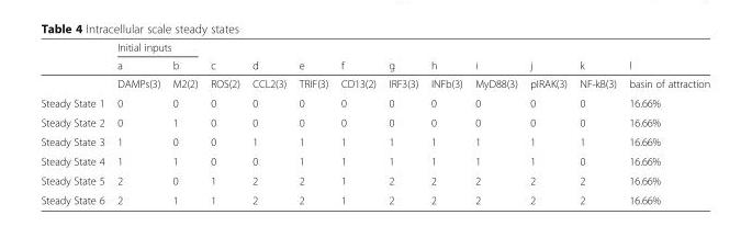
<table><thead><tr><td rowspan="2"></td><td colspan="2">Initial inputs</td><td rowspan="2">c</td><td rowspan="2">d</td><td rowspan="2">e</td><td rowspan="2">f</td><td rowspan="2">g</td><td rowspan="2">h</td><td rowspan="2">i</td><td rowspan="2">j</td><td rowspan="2">k</td><td rowspan="2">l</td></tr><tr><td>a</td><td>b</td></tr></thead><tbody><tr><td></td><td>DAMPs(3)</td><td>M2(2)</td><td>ROS(2)</td><td>CCL2(3)</td><td>TRIF(3)</td><td>CD13(2)</td><td>IRF3(3)</td><td>INFb(3)</td><td>MyD88(3)</td><td>pIRAK(3)</td><td>NF-kB(3)</td><td>basin of attraction</td></tr><tr><td>Steady State 1</td><td>0</td><td>0</td><td>0</td><td>0</td><td>0</td><td>0</td><td>0</td><td>0</td><td>0</td><td>0</td><td>0</td><td>16.66%</td></tr><tr><td>Steady State 2</td><td>0</td><td>1</td><td>0</td><td>0</td><td>0</td><td>0</td><td>0</td><td>0</td><td>0</td><td>0</td><td>0</td><td>16.66%</td></tr><tr><td>Steady State 3</td><td>1</td><td>0</td><td>0</td><td>1</td><td>1</td><td>1</td><td>1</td><td>1</td><td>1</td><td>1</td><td>1</td><td>16.66%</td></tr><tr><td>Steady State 4</td><td>1</td><td>1</td><td>0</td><td>0</td><td>1</td><td>1</td><td>1</td><td>1</td><td>1</td><td>1</td><td>0</td><td>16.66%</td></tr><tr><td>Steady State 5</td><td>2</td><td>0</td><td>1</td><td>2</td><td>2</td><td>1</td><td>2</td><td>2</td><td>2</td><td>2</td><td>2</td><td>16.66%</td></tr><tr><td>Steady State 6</td><td>2</td><td>1</td><td>1</td><td>2</td><td>2</td><td>1</td><td>2</td><td>2</td><td>2</td><td>2</td><td>2</td><td>16.66%</td></tr></tbody></table>